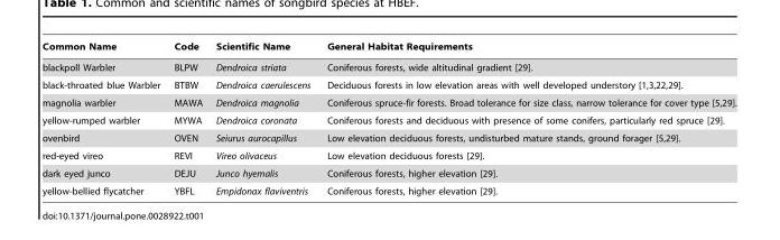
<table><thead><tr><td>Common Name</td><td>Code</td><td>Scientific Name</td><td>General Habitat Requirements</td></tr></thead><tbody><tr><td>blackpoll Warbler</td><td>BLPW</td><td>Dendroica striata</td><td>Coniferous forests, wide altitudinal gradient [29].</td></tr><tr><td>black-throated blue Warbler</td><td>BTBW</td><td>Dendroica caerulescens</td><td>Deciduous forests in low elevation areas with well developed understory [1,3,22,29].</td></tr><tr><td>magnolia warbler</td><td>MAWA</td><td>Dendroica magnolia</td><td>Coniferous spruce-fir forests. Broad tolerance for size class, narrow tolerance for cover type [5,29].</td></tr><tr><td>yellow-rumped warbler</td><td>MYWA</td><td>Dendroica coronata</td><td>Coniferous forests and deciduous with presence of some conifers, particularly red spruce [29].</td></tr><tr><td>ovenbird</td><td>OVEN</td><td>Seiurus aurocapillus</td><td>Low elevation deciduous forests, undisturbed mature stands, ground forager [5,29].</td></tr><tr><td>red-eyed vireo</td><td>REVI</td><td>Vireo olivaceus</td><td>Low elevation deciduous forests [29].</td></tr><tr><td>dark eyed junco</td><td>DEJU</td><td>Junco hyemalis</td><td>Coniferous forests, higher elevation [29].</td></tr><tr><td>yellow-bellied flycatcher</td><td>YBFL</td><td>Empidonax flaviventris</td><td>Coniferous forests, higher elevation [29].</td></tr></tbody></table>